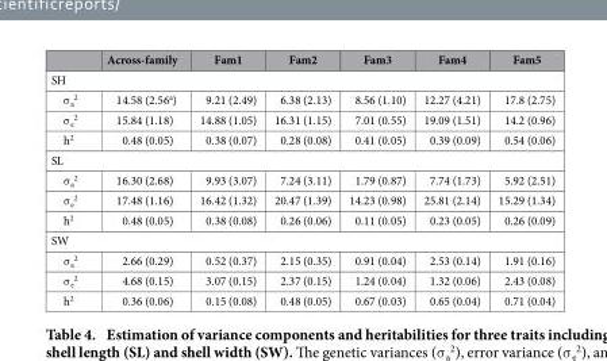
<table><thead><tr><td></td><td>Across-family</td><td>Fam1</td><td>Fam2</td><td>Fam3</td><td>Fam4</td><td>Fam5</td></tr></thead><tbody><tr><td colspan="7">SH</td></tr><tr><td>σ <sub>a</sub> <sup>2</sup></td><td>14.58 (2.56<sup>a</sup>)</td><td>9.21 (2.49)</td><td>6.38 (2.13)</td><td>8.56 (1.10)</td><td>12.27 (4.21)</td><td>17.8 (2.75)</td></tr><tr><td>σ <sub>e</sub> <sup>2</sup></td><td>15.84 (1.18)</td><td>14.88 (1.05)</td><td>16.31 (1.15)</td><td>7.01 (0.55)</td><td>19.09 (1.51)</td><td>14.2 (0.96)</td></tr><tr><td>h<sup>2</sup></td><td>0.48 (0.05)</td><td>0.38 (0.07)</td><td>0.28 (0.08)</td><td>0.41 (0.05)</td><td>0.39 (0.09)</td><td>0.54 (0.06)</td></tr><tr><td colspan="7">SL</td></tr><tr><td>σ <sub>a</sub> <sup>2</sup></td><td>16.30 (2.68)</td><td>9.93 (3.07)</td><td>7.24 (3.11)</td><td>1.79 (0.87)</td><td>7.74 (1.73)</td><td>5.92 (2.51)</td></tr><tr><td>σ <sub>e</sub> <sup>2</sup></td><td>17.48 (1.16)</td><td>16.42 (1.32)</td><td>20.47 (1.39)</td><td>14.23 (0.98)</td><td>25.81 (2.14)</td><td>15.29 (1.34)</td></tr><tr><td>h<sup>2</sup></td><td>0.48 (0.05)</td><td>0.38 (0.08)</td><td>0.26 (0.06)</td><td>0.11 (0.05)</td><td>0.23 (0.05)</td><td>0.26 (0.09)</td></tr><tr><td colspan="7">SW</td></tr><tr><td>σ <sub>a</sub> <sup>2</sup></td><td>2.66 (0.29)</td><td>0.52 (0.37)</td><td>2.15 (0.35)</td><td>0.91 (0.04)</td><td>2.53 (0.14)</td><td>1.91 (0.16)</td></tr><tr><td>σ <sub>e</sub> <sup>2</sup></td><td>4.68 (0.15)</td><td>3.07 (0.15)</td><td>2.37 (0.15)</td><td>1.24 (0.04)</td><td>1.32 (0.06)</td><td>2.43 (0.08)</td></tr><tr><td>h<sup>2</sup></td><td>0.36 (0.06)</td><td>0.15 (0.08)</td><td>0.48 (0.05)</td><td>0.67 (0.03)</td><td>0.65 (0.04)</td><td>0.71 (0.04)</td></tr></tbody></table>